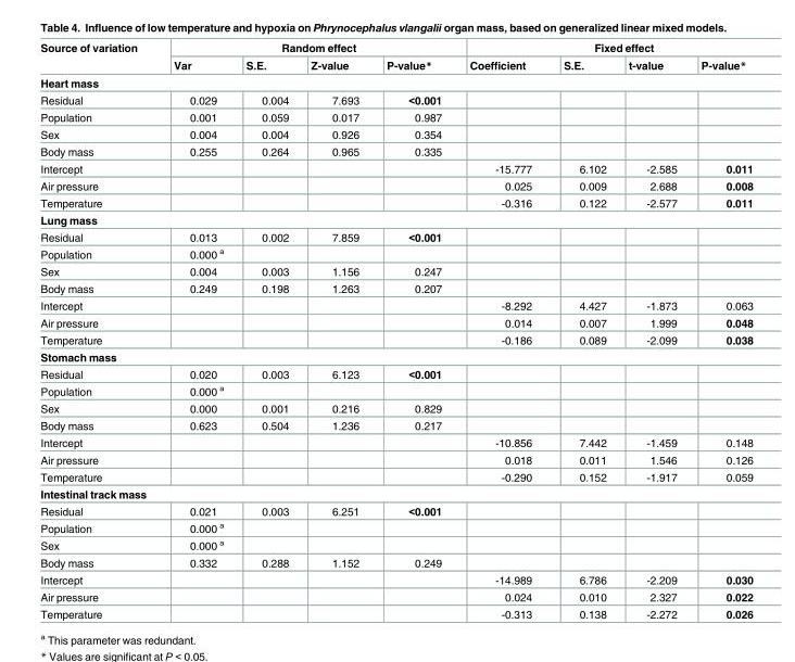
<table><thead><tr><td rowspan="2">Source of variation</td><td colspan="4">Random effect</td><td colspan="4">Fixed effect</td></tr><tr><td>Var</td><td>S.E.</td><td>Z-value</td><td>P-value*</td><td>Coefficient</td><td>S.E.</td><td>t-value</td><td>P-value*</td></tr></thead><tbody><tr><td colspan="9">Heart mass</td></tr><tr><td>Residual</td><td>0.029</td><td>0.004</td><td>7.693</td><td>&lt;0.001</td><td></td><td></td><td></td><td></td></tr><tr><td>Population</td><td>0.001</td><td>0.059</td><td>0.017</td><td>0.987</td><td></td><td></td><td></td><td></td></tr><tr><td>Sex</td><td>0.004</td><td>0.004</td><td>0.926</td><td>0.354</td><td></td><td></td><td></td><td></td></tr><tr><td>Body mass</td><td>0.255</td><td>0.264</td><td>0.965</td><td>0.335</td><td></td><td></td><td></td><td></td></tr><tr><td>Intercept</td><td></td><td></td><td></td><td></td><td>-15.777</td><td>6.102</td><td>-2.585</td><td>0.011</td></tr><tr><td>Air pressure</td><td></td><td></td><td></td><td></td><td>0.025</td><td>0.009</td><td>2.688</td><td>0.008</td></tr><tr><td>Temperature</td><td></td><td></td><td></td><td></td><td>-0.316</td><td>0.122</td><td>-2.577</td><td>0.011</td></tr><tr><td colspan="9">Lung mass</td></tr><tr><td>Residual</td><td>0.013</td><td>0.002</td><td>7.859</td><td>&lt;0.001</td><td></td><td></td><td></td><td></td></tr><tr><td>Population</td><td>0.000 <sup>a</sup></td><td></td><td></td><td></td><td></td><td></td><td></td><td></td></tr><tr><td>Sex</td><td>0.004</td><td>0.003</td><td>1.156</td><td>0.247</td><td></td><td></td><td></td><td></td></tr><tr><td>Body mass</td><td>0.249</td><td>0.198</td><td>1.263</td><td>0.207</td><td></td><td></td><td></td><td></td></tr><tr><td>Intercept</td><td></td><td></td><td></td><td></td><td>-8.292</td><td>4.427</td><td>-1.873</td><td>0.063</td></tr><tr><td>Air pressure</td><td></td><td></td><td></td><td></td><td>0.014</td><td>0.007</td><td>1.999</td><td>0.048</td></tr><tr><td>Temperature</td><td></td><td></td><td></td><td></td><td>-0.186</td><td>0.089</td><td>-2.099</td><td>0.038</td></tr><tr><td colspan="9">Stomach mass</td></tr><tr><td>Residual</td><td>0.020</td><td>0.003</td><td>6.123</td><td>&lt;0.001</td><td></td><td></td><td></td><td></td></tr><tr><td>Population</td><td>0.000 <sup>a</sup></td><td></td><td></td><td></td><td></td><td></td><td></td><td></td></tr><tr><td>Sex</td><td>0.000</td><td>0.001</td><td>0.216</td><td>0.829</td><td></td><td></td><td></td><td></td></tr><tr><td>Body mass</td><td>0.623</td><td>0.504</td><td>1.236</td><td>0.217</td><td></td><td></td><td></td><td></td></tr><tr><td>Intercept</td><td></td><td></td><td></td><td></td><td>-10.856</td><td>7.442</td><td>-1.459</td><td>0.148</td></tr><tr><td>Air pressure</td><td></td><td></td><td></td><td></td><td>0.018</td><td>0.011</td><td>1.546</td><td>0.126</td></tr><tr><td>Temperature</td><td></td><td></td><td></td><td></td><td>-0.290</td><td>0.152</td><td>-1.917</td><td>0.059</td></tr><tr><td colspan="9">Intestinal track mass</td></tr><tr><td>Residual</td><td>0.021</td><td>0.003</td><td>6.251</td><td>&lt;0.001</td><td></td><td></td><td></td><td></td></tr><tr><td>Population</td><td>0.000 <sup>a</sup></td><td></td><td></td><td></td><td></td><td></td><td></td><td></td></tr><tr><td>Sex</td><td>0.000 <sup>a</sup></td><td></td><td></td><td></td><td></td><td></td><td></td><td></td></tr><tr><td>Body mass</td><td>0.332</td><td>0.288</td><td>1.152</td><td>0.249</td><td></td><td></td><td></td><td></td></tr><tr><td>Intercept</td><td></td><td></td><td></td><td></td><td>-14.989</td><td>6.786</td><td>-2.209</td><td>0.030</td></tr><tr><td>Air pressure</td><td></td><td></td><td></td><td></td><td>0.024</td><td>0.010</td><td>2.327</td><td>0.022</td></tr><tr><td>Temperature</td><td></td><td></td><td></td><td></td><td>-0.313</td><td>0.138</td><td>-2.272</td><td>0.026</td></tr></tbody></table>